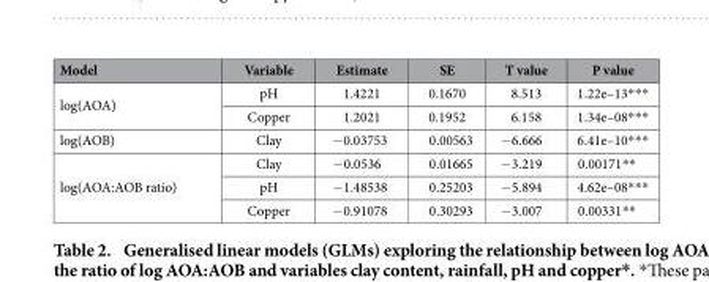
<table><thead><tr><td>Model</td><td>Variable</td><td>Estimate</td><td>SE</td><td>T value</td><td>P value</td></tr></thead><tbody><tr><td rowspan="2">log(AOA)</td><td>pH</td><td>1.4221</td><td>0.1670</td><td>8.513</td><td>1.22e–13* * *</td></tr><tr><td>Copper</td><td>1.2021</td><td>0.1952</td><td>6.158</td><td>1.34e–08* * *</td></tr><tr><td>log(AOB)</td><td>Clay</td><td>− 0.03753</td><td>0.00563</td><td>− 6.666</td><td>6.41e–10* * *</td></tr><tr><td rowspan="3">log(AOA:AOB ratio)</td><td>Clay</td><td>− 0.0536</td><td>0.01665</td><td>− 3.219</td><td>0.00171* *</td></tr><tr><td>pH</td><td>− 1.48538</td><td>0.25203</td><td>− 5.894</td><td>4.62e–08* * *</td></tr><tr><td>Copper</td><td>− 0.91078</td><td>0.30293</td><td>− 3.007</td><td>0.00331* *</td></tr></tbody></table>